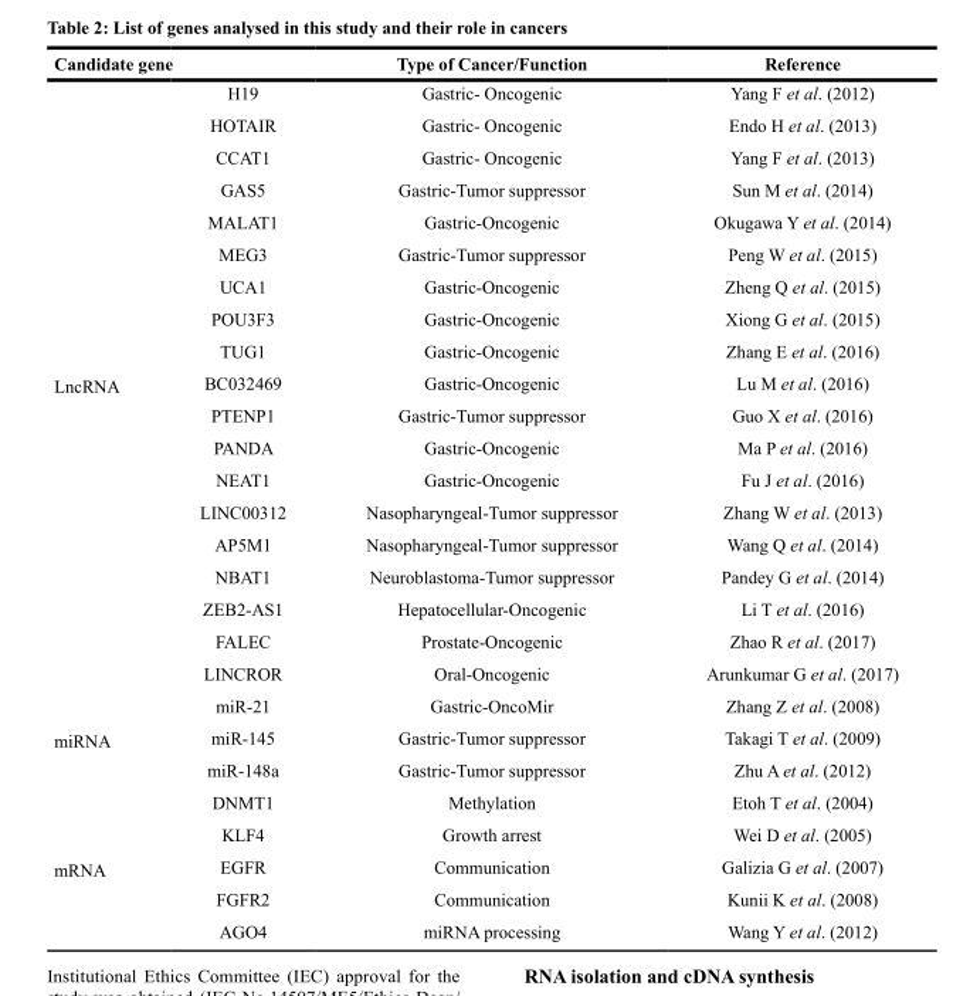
<table><thead><tr><td>Candidate gene</td><td></td><td>Type of Cancer/Function</td><td>Reference</td></tr></thead><tbody><tr><td rowspan="19">LncRNA</td><td>H19</td><td>Gastric- Oncogenic</td><td>Yang F et al. (2012)</td></tr><tr><td>HOTAIR</td><td>Gastric- Oncogenic</td><td>Endo H et al. (2013)</td></tr><tr><td>CCAT1</td><td>Gastric- Oncogenic</td><td>Yang F et al. (2013)</td></tr><tr><td>GAS5</td><td>Gastric-Tumor suppressor</td><td>Sun M et al. (2014)</td></tr><tr><td>MALAT1</td><td>Gastric-Oncogenic</td><td>Okugawa Y et al. (2014)</td></tr><tr><td>MEG3</td><td>Gastric-Tumor suppressor</td><td>Peng W et al. (2015)</td></tr><tr><td>UCA1</td><td>Gastric-Oncogenic</td><td>Zheng Q et al. (2015)</td></tr><tr><td>POU3F3</td><td>Gastric-Oncogenic</td><td>Xiong G et al. (2015)</td></tr><tr><td>TUG1</td><td>Gastric-Oncogenic</td><td>Zhang E et al. (2016)</td></tr><tr><td>BC032469</td><td>Gastric-Oncogenic</td><td>Lu M et al. (2016)</td></tr><tr><td>PTENP1</td><td>Gastric-Tumor suppressor</td><td>Guo X et al. (2016)</td></tr><tr><td>PANDA</td><td>Gastric-Oncogenic</td><td>Ma P et al. (2016)</td></tr><tr><td>NEAT1</td><td>Gastric-Oncogenic</td><td>Fu J et al. (2016)</td></tr><tr><td>LINC00312</td><td>Nasopharyngeal-Tumor suppressor</td><td>Zhang W et al. (2013)</td></tr><tr><td>AP5M1</td><td>Nasopharyngeal-Tumor suppressor</td><td>Wang Q et al. (2014)</td></tr><tr><td>NBAT1</td><td>Neuroblastoma-Tumor suppressor</td><td>Pandey G et al. (2014)</td></tr><tr><td>ZEB2-AS1</td><td>Hepatocellular-Oncogenic</td><td>Li T et al. (2016)</td></tr><tr><td>FALEC</td><td>Prostate-Oncogenic</td><td>Zhao R et al. (2017)</td></tr><tr><td>LINCROR</td><td>Oral-Oncogenic</td><td>Arunkumar G et al. (2017)</td></tr><tr><td rowspan="3">miRNA</td><td>miR-21</td><td>Gastric-OncoMir</td><td>Zhang Z et al. (2008)</td></tr><tr><td>miR-145</td><td>Gastric-Tumor suppressor</td><td>Takagi T et al. (2009)</td></tr><tr><td>miR-148a</td><td>Gastric-Tumor suppressor</td><td>Zhu A et al. (2012)</td></tr><tr><td rowspan="5">mRNA</td><td>DNMT1</td><td>Methylation</td><td>Etoh T et al. (2004)</td></tr><tr><td>KLF4</td><td>Growth arrest</td><td>Wei D et al. (2005)</td></tr><tr><td>EGFR</td><td>Communication</td><td>Galizia G et al. (2007)</td></tr><tr><td>FGFR2</td><td>Communication</td><td>Kunii K et al. (2008)</td></tr><tr><td>AGO4</td><td>miRNA processing</td><td>Wang Y et al. (2012)</td></tr></tbody></table>